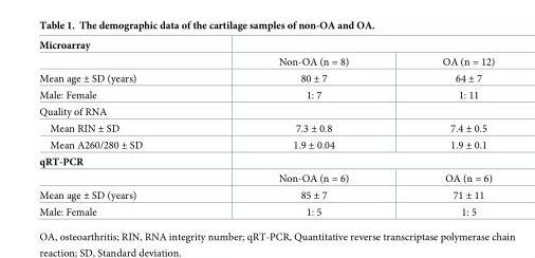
<table><tbody><tr><td colspan="3">Microarray</td></tr><tr><td></td><td>Non-OA (n = 8)</td><td>OA (n = 12)</td></tr><tr><td>Mean age ± SD (years)</td><td>80 ± 7</td><td>64 ± 7</td></tr><tr><td>Male: Female</td><td>1: 7</td><td>1: 11</td></tr><tr><td colspan="3">Quality of RNA</td></tr><tr><td>Mean RIN ± SD</td><td>7.3 ± 0.8</td><td>7.4 ± 0.5</td></tr><tr><td>Mean A260/280 ± SD</td><td>1.9 ± 0.04</td><td>1.9 ± 0.1</td></tr><tr><td colspan="3">qRT-PCR</td></tr><tr><td></td><td>Non-OA (n = 6)</td><td>OA (n = 6)</td></tr><tr><td>Mean age ± SD (years)</td><td>85 ± 7</td><td>71 ± 11</td></tr><tr><td>Male: Female</td><td>1: 5</td><td>1: 5</td></tr></tbody></table>